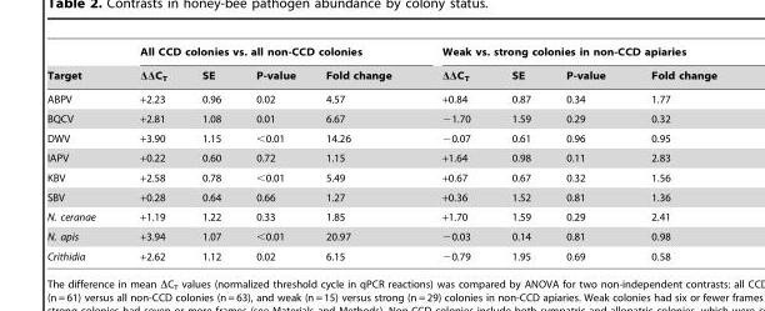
<table><thead><tr><td rowspan="2">Target</td><td colspan="4">All CCD colonies vs. all non-CCD colonies</td><td colspan="4">Weak vs. strong colonies in non-CCD apiaries</td></tr><tr><td>ΔΔC<sub>T</sub></td><td>SE</td><td>P-value</td><td>Fold change</td><td>ΔΔC<sub>T</sub></td><td>SE</td><td>P-value</td><td>Fold change</td></tr></thead><tbody><tr><td>ABPV</td><td>+2.23</td><td>0.96</td><td>0.02</td><td>4.57</td><td>+0.84</td><td>0.87</td><td>0.34</td><td>1.77</td></tr><tr><td>BQCV</td><td>+2.81</td><td>1.08</td><td>0.01</td><td>6.67</td><td>−1.70</td><td>1.59</td><td>0.29</td><td>0.32</td></tr><tr><td>DWV</td><td>+3.90</td><td>1.15</td><td>&lt;0.01</td><td>14.26</td><td>−0.07</td><td>0.61</td><td>0.96</td><td>0.95</td></tr><tr><td>IAPV</td><td>+0.22</td><td>0.60</td><td>0.72</td><td>1.15</td><td>+1.64</td><td>0.98</td><td>0.11</td><td>2.83</td></tr><tr><td>KBV</td><td>+2.58</td><td>0.78</td><td>&lt;0.01</td><td>5.49</td><td>+0.67</td><td>0.67</td><td>0.32</td><td>1.56</td></tr><tr><td>SBV</td><td>+0.28</td><td>0.64</td><td>0.66</td><td>1.27</td><td>+0.36</td><td>1.52</td><td>0.81</td><td>1.36</td></tr><tr><td>N. ceranae</td><td>+1.19</td><td>1.22</td><td>0.33</td><td>1.85</td><td>+1.70</td><td>1.59</td><td>0.29</td><td>2.41</td></tr><tr><td>N. apis</td><td>+3.94</td><td>1.07</td><td>&lt;0.01</td><td>20.97</td><td>−0.03</td><td>0.14</td><td>0.81</td><td>0.98</td></tr><tr><td>Crithidia</td><td>+2.62</td><td>1.12</td><td>0.02</td><td>6.15</td><td>−0.79</td><td>1.95</td><td>0.69</td><td>0.58</td></tr></tbody></table>